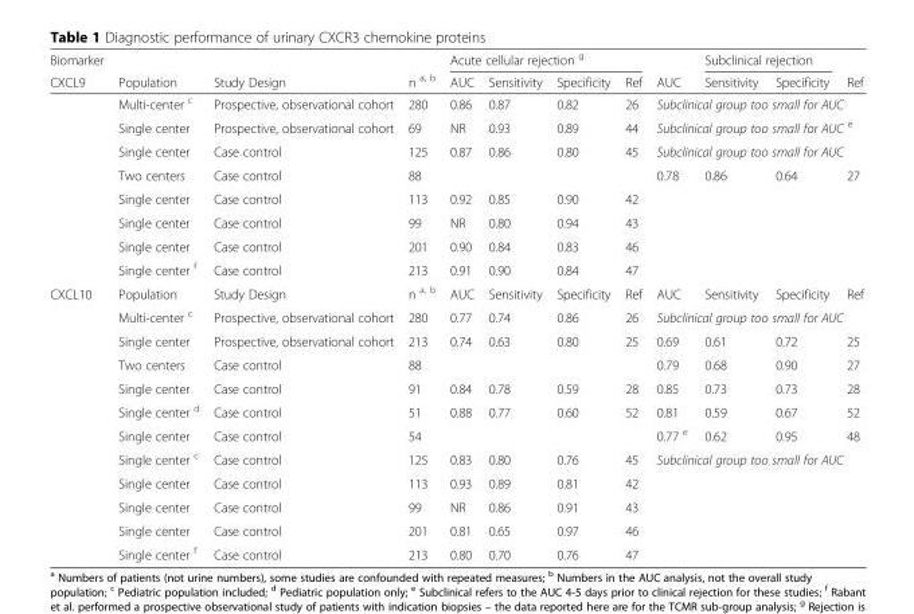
<table><thead><tr><td rowspan="2">Biomarker CXCL9</td><td rowspan="2">Population</td><td rowspan="2">Study Design</td><td rowspan="2">n <sup>a, b</sup></td><td colspan="4">Acute cellular rejection <sup>g</sup></td><td rowspan="2">AUC</td><td colspan="2">Subclinical rejection</td><td rowspan="2">Ref</td></tr><tr><td>AUC</td><td>Sensitivity</td><td>Specificity</td><td>Ref</td><td>Sensitivity</td><td>Specificity</td></tr></thead><tbody><tr><td></td><td>Multi-center <sup>c</sup></td><td>Prospective, observational cohort</td><td>280</td><td>0.86</td><td>0.87</td><td>0.82</td><td>26</td><td colspan="4">Subclinical group too small for AUC</td></tr><tr><td></td><td>Single center</td><td>Prospective, observational cohort</td><td>69</td><td>NR</td><td>0.93</td><td>0.89</td><td>44</td><td colspan="4">Subclinical group too small for AUC <sup>e</sup></td></tr><tr><td></td><td>Single center</td><td>Case control</td><td>125</td><td>0.87</td><td>0.86</td><td>0.80</td><td>45</td><td colspan="4">Subclinical group too small for AUC</td></tr><tr><td></td><td>Two centers</td><td>Case control</td><td>88</td><td></td><td></td><td></td><td></td><td>0.78</td><td>0.86</td><td>0.64</td><td>27</td></tr><tr><td></td><td>Single center</td><td>Case control</td><td>113</td><td>0.92</td><td>0.85</td><td>0.90</td><td>42</td><td></td><td></td><td></td><td></td></tr><tr><td></td><td>Single center</td><td>Case control</td><td>99</td><td>NR</td><td>0.80</td><td>0.94</td><td>43</td><td></td><td></td><td></td><td></td></tr><tr><td></td><td>Single center</td><td>Case control</td><td>201</td><td>0.90</td><td>0.84</td><td>0.83</td><td>46</td><td></td><td></td><td></td><td></td></tr><tr><td></td><td>Single center <sup>f</sup></td><td>Case control</td><td>213</td><td>0.91</td><td>0.90</td><td>0.84</td><td>47</td><td></td><td></td><td></td><td></td></tr><tr><td rowspan="12">CXCL10</td><td>Population</td><td>Study Design</td><td>n <sup>a, b</sup></td><td>AUC</td><td>Sensitivity</td><td>Specificity</td><td>Ref</td><td>AUC</td><td>Sensitivity</td><td>Specificity</td><td>Ref</td></tr><tr><td>Multi-center <sup>c</sup></td><td>Prospective, observational cohort</td><td>280</td><td>0.77</td><td>0.74</td><td>0.86</td><td>26</td><td colspan="4">Subclinical group too small for AUC</td></tr><tr><td>Single center</td><td>Prospective, observational cohort</td><td>213</td><td>0.74</td><td>0.63</td><td>0.80</td><td>25</td><td>0.69</td><td>0.61</td><td>0.72</td><td>25</td></tr><tr><td>Two centers</td><td>Case control</td><td>88</td><td></td><td></td><td></td><td></td><td>0.79</td><td>0.68</td><td>0.90</td><td>27</td></tr><tr><td>Single center</td><td>Case control</td><td>91</td><td>0.84</td><td>0.78</td><td>0.59</td><td>28</td><td>0.85</td><td>0.73</td><td>0.73</td><td>28</td></tr><tr><td>Single center <sup>d</sup></td><td>Case control</td><td>51</td><td>0.88</td><td>0.77</td><td>0.60</td><td>52</td><td>0.81</td><td>0.59</td><td>0.67</td><td>52</td></tr><tr><td>Single center</td><td>Case control</td><td>54</td><td></td><td></td><td></td><td></td><td>0.77 <sup>e</sup></td><td>0.62</td><td>0.95</td><td>48</td></tr><tr><td>Single center <sup>c</sup></td><td>Case control</td><td>125</td><td>0.83</td><td>0.80</td><td>0.76</td><td>45</td><td colspan="4">Subclinical group too small for AUC</td></tr><tr><td>Single center</td><td>Case control</td><td>113</td><td>0.93</td><td>0.89</td><td>0.81</td><td>42</td><td></td><td></td><td></td><td></td></tr><tr><td>Single center</td><td>Case control</td><td>99</td><td>NR</td><td>0.86</td><td>0.91</td><td>43</td><td></td><td></td><td></td><td></td></tr><tr><td>Single center</td><td>Case control</td><td>201</td><td>0.81</td><td>0.65</td><td>0.97</td><td>46</td><td></td><td></td><td></td><td></td></tr><tr><td>Single center <sup>f</sup></td><td>Case control</td><td>213</td><td>0.80</td><td>0.70</td><td>0.76</td><td>47</td><td></td><td></td><td></td><td></td></tr></tbody></table>